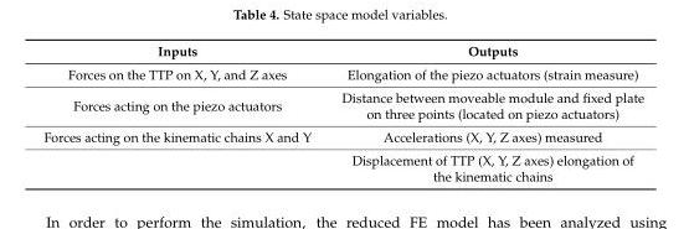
<table><thead><tr><td>Inputs</td><td>Outputs</td></tr></thead><tbody><tr><td>Forces on the TTP on X, Y, and Z axes</td><td>Elongation of the piezo actuators (strain measure)</td></tr><tr><td>Forces acting on the piezo actuators</td><td>Distance between moveable module and fixed plate on three points (located on piezo actuators)</td></tr><tr><td rowspan="2">Forces acting on the kinematic chains X and Y</td><td>Accelerations (X, Y, Z axes) measured</td></tr><tr><td>Displacement of TTP (X, Y, Z axes) elongation of the kinematic chains</td></tr></tbody></table>